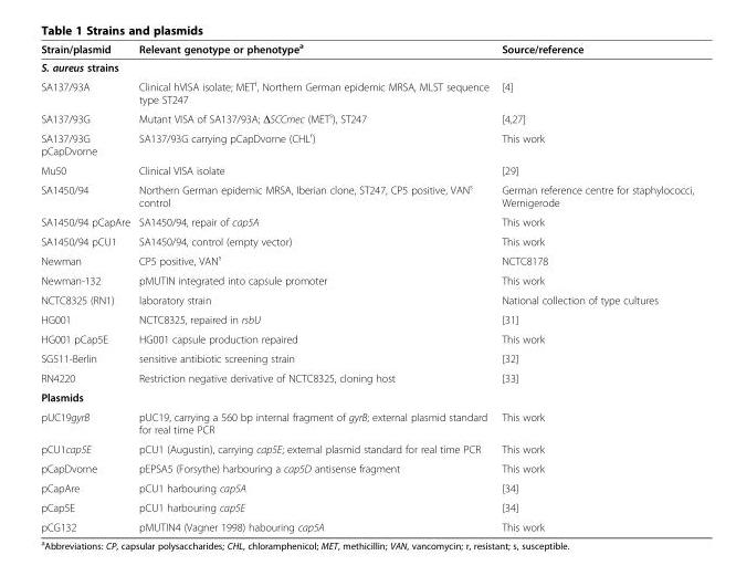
<table><thead><tr><td>Strain/plasmid</td><td>Relevant genotype or phenotype<sup>a</sup></td><td>Source/reference</td></tr></thead><tbody><tr><td colspan="3">S. aureus strains</td></tr><tr><td>SA137/93A</td><td>Clinical hVISA isolate; MET<sup>r</sup>, Northern German epidemic MRSA, MLST sequence type ST247</td><td>[4]</td></tr><tr><td>SA137/93G</td><td>Mutant VISA of SA137/93A; ΔSCCmec (MET<sup>s</sup>), ST247</td><td>[4,27]</td></tr><tr><td>SA137/93G pCapDvorne</td><td>SA137/93G carrying pCapDvorne (CHL<sup>r</sup>)</td><td>This work</td></tr><tr><td>Mu50</td><td>Clinical VISA isolate</td><td>[29]</td></tr><tr><td>SA1450/94</td><td>Northern German epidemic MRSA, Iberian clone, ST247, CP5 positive, VAN<sup>s</sup> control</td><td>German reference centre for staphylococci, Wernigerode</td></tr><tr><td>SA1450/94 pCapAre</td><td>SA1450/94, repair of cap5A</td><td>This work</td></tr><tr><td>SA1450/94 pCU1</td><td>SA1450/94, control (empty vector)</td><td>This work</td></tr><tr><td>Newman</td><td>CP5 positive, VAN<sup>s</sup></td><td>NCTC8178</td></tr><tr><td>Newman-132</td><td>pMUTIN integrated into capsule promoter</td><td>This work</td></tr><tr><td>NCTC8325 (RN1)</td><td>laboratory strain</td><td>National collection of type cultures</td></tr><tr><td>HG001</td><td>NCTC8325, repaired in rsbU</td><td>[31]</td></tr><tr><td>HG001 pCap5E</td><td>HG001 capsule production repaired</td><td>This work</td></tr><tr><td>SG511-Berlin</td><td>sensitive antibiotic screening strain</td><td>[32]</td></tr><tr><td>RN4220</td><td>Restriction negative derivative of NCTC8325, cloning host</td><td>[33]</td></tr><tr><td colspan="3">Plasmids</td></tr><tr><td>pUC19gyrB</td><td>pUC19, carrying a 560 bp internal fragment of gyrB; external plasmid standard for real time PCR</td><td>This work</td></tr><tr><td>pCU1cap5E</td><td>pCU1 (Augustin), carrying cap5E; external plasmid standard for real time PCR</td><td>This work</td></tr><tr><td>pCapDvorne</td><td>pEPSA5 (Forsythe) harbouring a cap5D antisense fragment</td><td>This work</td></tr><tr><td>pCapAre</td><td>pCU1 harbouring cap5A</td><td>[34]</td></tr><tr><td>pCap5E</td><td>pCU1 harbouring cap5E</td><td>[34]</td></tr><tr><td>pCG132</td><td>pMUTIN4 (Vagner 1998) habouring cap5A</td><td>This work</td></tr></tbody></table>